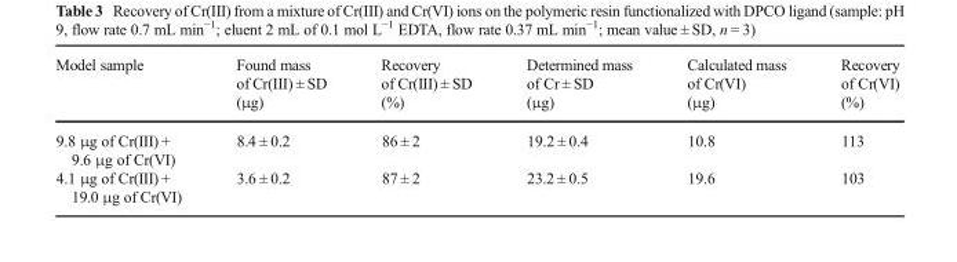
<table><thead><tr><td>Model sample</td><td>Found mass of Cr(III) ± SD (μg)</td><td>Recovery of Cr(III) ± SD (%)</td><td>Determined mass of Cr ± SD (μg)</td><td>Calculated mass of Cr(VI) (μg)</td><td>Recovery of Cr(VI) (%)</td></tr></thead><tbody><tr><td>9.8 μg of Cr(III) + 9.6 μg of Cr(VI)</td><td>8.4 ± 0.2</td><td>86 ± 2</td><td>19.2 ± 0.4</td><td>10.8</td><td>113</td></tr><tr><td>4.1 μg of Cr(III) + 19.0 μg of Cr(VI)</td><td>3.6 ± 0.2</td><td>87 ± 2</td><td>23.2 ± 0.5</td><td>19.6</td><td>103</td></tr></tbody></table>